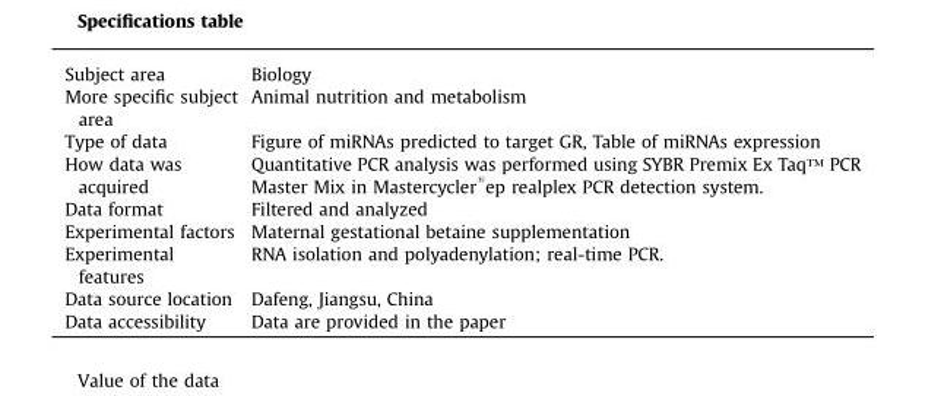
<table><tbody><tr><td>Subject area</td><td>Biology</td></tr><tr><td>More specific subject area</td><td>Animal nutrition and metabolism</td></tr><tr><td>Type of data</td><td>Figure of miRNAs predicted to target GR, Table of miRNAs expression</td></tr><tr><td>How data was acquired</td><td>Quantitative PCR analysis was performed using SYBR Premix Ex Taq™ PCR Master Mix in Mastercycler <sup>®</sup>ep realplex PCR detection system.</td></tr><tr><td>Data format</td><td>Filtered and analyzed</td></tr><tr><td>Experimental factors</td><td>Maternal gestational betaine supplementation</td></tr><tr><td>Experimental features</td><td>RNA isolation and polyadenylation; real-time PCR.</td></tr><tr><td>Data source location</td><td>Dafeng, Jiangsu, China</td></tr><tr><td>Data accessibility</td><td>Data are provided in the paper</td></tr></tbody></table>